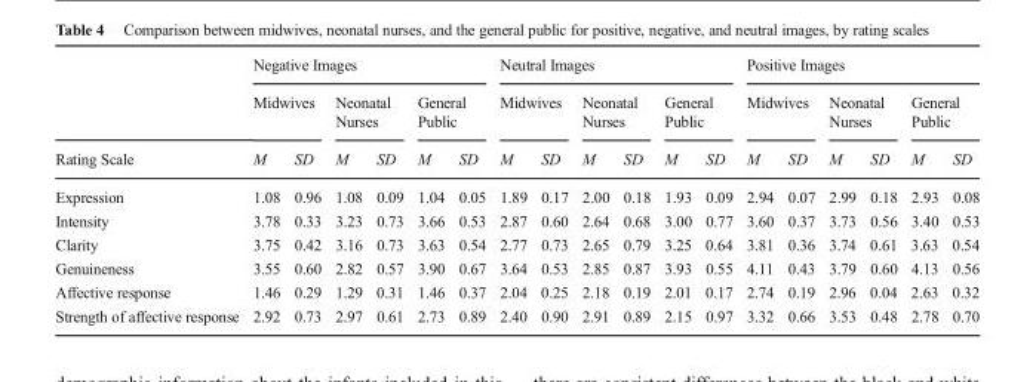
<table><thead><tr><td rowspan="3">Rating Scale</td><td colspan="6">Negative Images</td><td colspan="6">Neutral Images</td><td colspan="6">Positive Images</td></tr><tr><td colspan="2">Midwives</td><td colspan="2">Neonatal Nurses</td><td colspan="2">General Public</td><td colspan="2">Midwives</td><td colspan="2">Neonatal Nurses</td><td colspan="2">General Public</td><td colspan="2">Midwives</td><td colspan="2">Neonatal Nurses</td><td colspan="2">General Public</td></tr><tr><td>M</td><td>SD</td><td>M</td><td>SD</td><td>M</td><td>SD</td><td>M</td><td>SD</td><td>M</td><td>SD</td><td>M</td><td>SD</td><td>M</td><td>SD</td><td>M</td><td>SD</td><td>M</td><td>SD</td></tr></thead><tbody><tr><td>Expression</td><td>1.08</td><td>0.96</td><td>1.08</td><td>0.09</td><td>1.04</td><td>0.05</td><td>1.89</td><td>0.17</td><td>2.00</td><td>0.18</td><td>1.93</td><td>0.09</td><td>2.94</td><td>0.07</td><td>2.99</td><td>0.18</td><td>2.93</td><td>0.08</td></tr><tr><td>Intensity</td><td>3.78</td><td>0.33</td><td>3.23</td><td>0.73</td><td>3.66</td><td>0.53</td><td>2.87</td><td>0.60</td><td>2.64</td><td>0.68</td><td>3.00</td><td>0.77</td><td>3.60</td><td>0.37</td><td>3.73</td><td>0.56</td><td>3.40</td><td>0.53</td></tr><tr><td>Clarity</td><td>3.75</td><td>0.42</td><td>3.16</td><td>0.73</td><td>3.63</td><td>0.54</td><td>2.77</td><td>0.73</td><td>2.65</td><td>0.79</td><td>3.25</td><td>0.64</td><td>3.81</td><td>0.36</td><td>3.74</td><td>0.61</td><td>3.63</td><td>0.54</td></tr><tr><td>Genuineness</td><td>3.55</td><td>0.60</td><td>2.82</td><td>0.57</td><td>3.90</td><td>0.67</td><td>3.64</td><td>0.53</td><td>2.85</td><td>0.87</td><td>3.93</td><td>0.55</td><td>4.11</td><td>0.43</td><td>3.79</td><td>0.60</td><td>4.13</td><td>0.56</td></tr><tr><td>Affective response</td><td>1.46</td><td>0.29</td><td>1.29</td><td>0.31</td><td>1.46</td><td>0.37</td><td>2.04</td><td>0.25</td><td>2.18</td><td>0.19</td><td>2.01</td><td>0.17</td><td>2.74</td><td>0.19</td><td>2.96</td><td>0.04</td><td>2.63</td><td>0.32</td></tr><tr><td>Strength of affective response</td><td>2.92</td><td>0.73</td><td>2.97</td><td>0.61</td><td>2.73</td><td>0.89</td><td>2.40</td><td>0.90</td><td>2.91</td><td>0.89</td><td>2.15</td><td>0.97</td><td>3.32</td><td>0.66</td><td>3.53</td><td>0.48</td><td>2.78</td><td>0.70</td></tr></tbody></table>